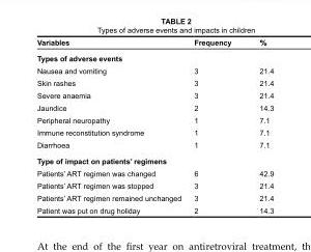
<table><thead><tr><td>Variables</td><td>Frequency</td><td>%</td></tr></thead><tbody><tr><td colspan="3">Types of adverse events</td></tr><tr><td>Nausea and vomiting</td><td>3</td><td>21.4</td></tr><tr><td>Skin rashes</td><td>3</td><td>21.4</td></tr><tr><td>Severe anaemia</td><td>3</td><td>21.4</td></tr><tr><td>Jaundice</td><td>2</td><td>14.3</td></tr><tr><td>Peripheral neuropathy</td><td>1</td><td>7.1</td></tr><tr><td>Immune reconstitution syndrome</td><td>1</td><td>7.1</td></tr><tr><td>Diarrhoea</td><td>1</td><td>7.1</td></tr><tr><td colspan="3">Type of impact on patients’ regimens</td></tr><tr><td>Patients’ ART regimen was changed</td><td>6</td><td>42.9</td></tr><tr><td>Patients’ ART regimen was stopped</td><td>3</td><td>21.4</td></tr><tr><td>Patients’ ART regimen remained unchanged</td><td>3</td><td>21.4</td></tr><tr><td>Patient was put on drug holiday</td><td>2</td><td>14.3</td></tr></tbody></table>